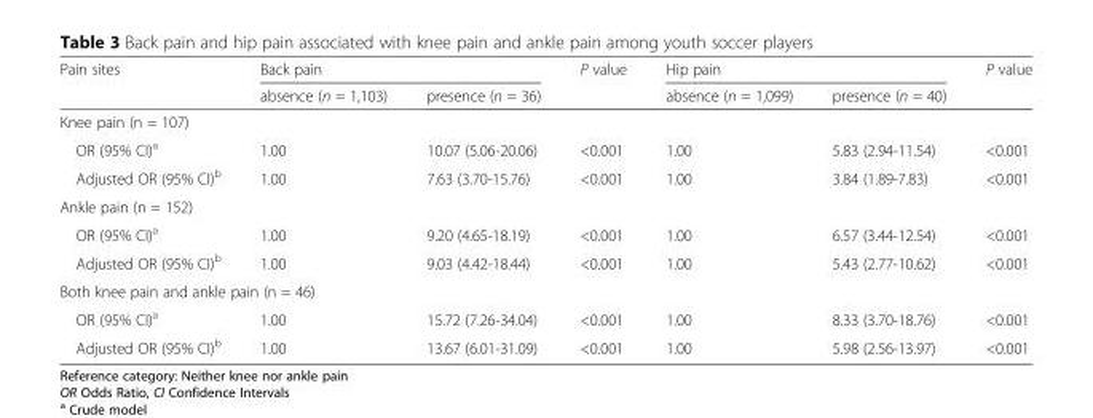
<table><thead><tr><td rowspan="2">Pain sites</td><td colspan="2">Back pain</td><td rowspan="2">P value</td><td colspan="2">Hip pain</td><td rowspan="2">P value</td></tr><tr><td>absence (n = 1,103)</td><td>presence (n = 36)</td><td>absence (n = 1,099)</td><td>presence (n = 40)</td></tr></thead><tbody><tr><td colspan="7">Knee pain (n = 107)</td></tr><tr><td>OR (95% CI)<sup>a</sup></td><td>1.00</td><td>10.07 (5.06-20.06)</td><td>&lt;0.001</td><td>1.00</td><td>5.83 (2.94-11.54)</td><td>&lt;0.001</td></tr><tr><td>Adjusted OR (95% CI)<sup>b</sup></td><td>1.00</td><td>7.63 (3.70-15.76)</td><td>&lt;0.001</td><td>1.00</td><td>3.84 (1.89-7.83)</td><td>&lt;0.001</td></tr><tr><td colspan="7">Ankle pain (n = 152)</td></tr><tr><td>OR (95% CI)<sup>a</sup></td><td>1.00</td><td>9.20 (4.65-18.19)</td><td>&lt;0.001</td><td>1.00</td><td>6.57 (3.44-12.54)</td><td>&lt;0.001</td></tr><tr><td>Adjusted OR (95% CI)<sup>b</sup></td><td>1.00</td><td>9.03 (4.42-18.44)</td><td>&lt;0.001</td><td>1.00</td><td>5.43 (2.77-10.62)</td><td>&lt;0.001</td></tr><tr><td colspan="7">Both knee pain and ankle pain (n = 46)</td></tr><tr><td>OR (95% CI)<sup>a</sup></td><td>1.00</td><td>15.72 (7.26-34.04)</td><td>&lt;0.001</td><td>1.00</td><td>8.33 (3.70-18.76)</td><td>&lt;0.001</td></tr><tr><td>Adjusted OR (95% CI)<sup>b</sup></td><td>1.00</td><td>13.67 (6.01-31.09)</td><td>&lt;0.001</td><td>1.00</td><td>5.98 (2.56-13.97)</td><td>&lt;0.001</td></tr></tbody></table>